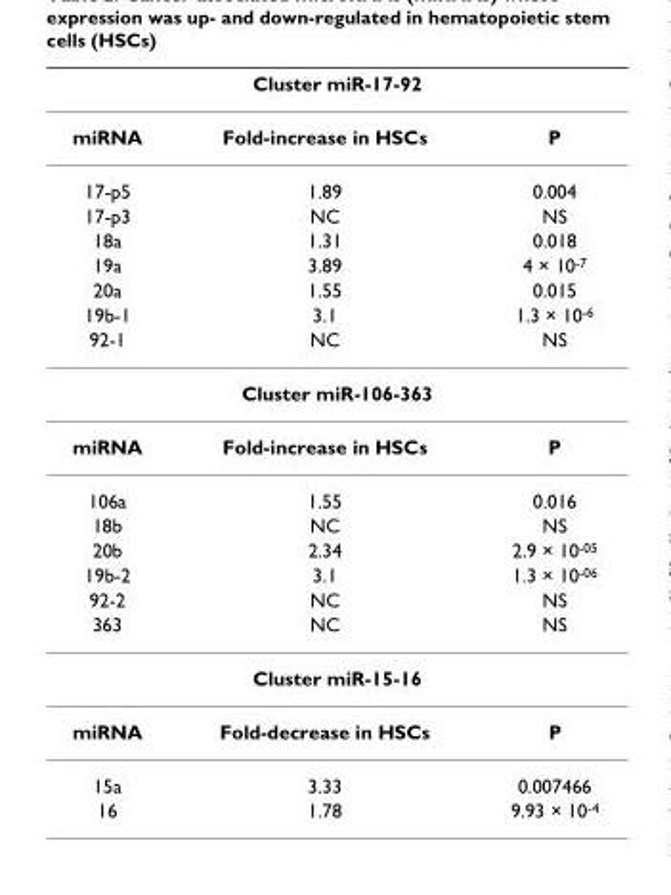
<table><thead><tr><td colspan="3">Cluster miR-17-92</td></tr><tr><td>miRNA</td><td>Fold-increase in HSCs</td><td>P</td></tr></thead><tbody><tr><td>17-p5</td><td>1.89</td><td>0.004</td></tr><tr><td>17-p3</td><td>NC</td><td>NS</td></tr><tr><td>18a</td><td>1.31</td><td>0.018</td></tr><tr><td>19a</td><td>3.89</td><td>4 × 10<sup>-7</sup></td></tr><tr><td>20a</td><td>1.55</td><td>0.015</td></tr><tr><td>19b-1</td><td>3.1</td><td>1.3 × 10<sup>-6</sup></td></tr><tr><td>92-1</td><td>NC</td><td>NS</td></tr><tr><td colspan="3">Cluster miR-106-363</td></tr><tr><td>miRNA</td><td>Fold-increase in HSCs</td><td>P</td></tr><tr><td>106a</td><td>1.55</td><td>0.016</td></tr><tr><td>18b</td><td>NC</td><td>NS</td></tr><tr><td>20b</td><td>2.34</td><td>2.9 × 10<sup>-05</sup></td></tr><tr><td>19b-2</td><td>3.1</td><td>1.3 × 10<sup>-06</sup></td></tr><tr><td>92-2</td><td>NC</td><td>NS</td></tr><tr><td>363</td><td>NC</td><td>NS</td></tr><tr><td colspan="3">Cluster miR-15-16</td></tr><tr><td>miRNA</td><td>Fold-decrease in HSCs</td><td>P</td></tr><tr><td>15a</td><td>3.33</td><td>0.007466</td></tr><tr><td>16</td><td>1.78</td><td>9.93 × 10<sup>-4</sup></td></tr></tbody></table>